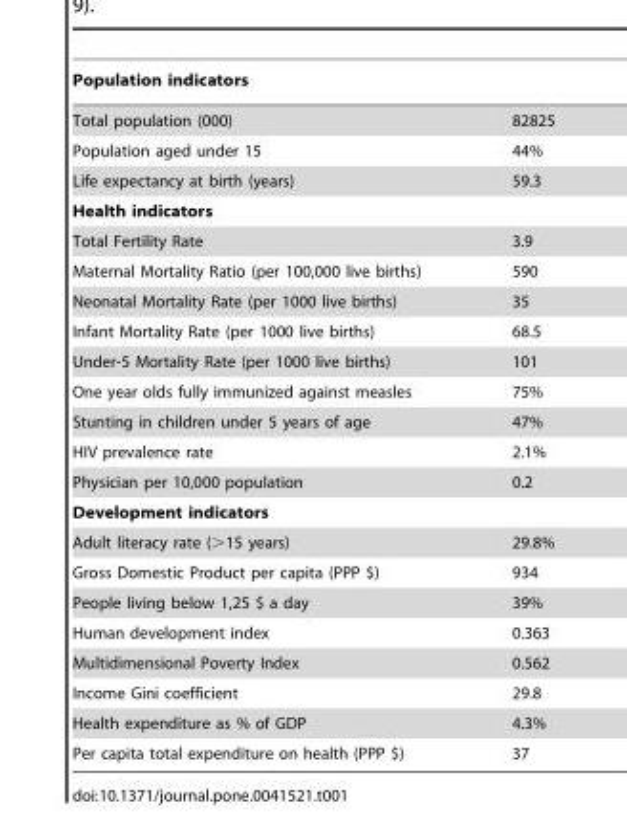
<table><thead><tr><td>Population indicators</td><td></td></tr></thead><tbody><tr><td>Total population (000)</td><td>82825</td></tr><tr><td>Population aged under 15</td><td>44%</td></tr><tr><td>Life expectancy at birth (years)</td><td>59.3</td></tr><tr><td colspan="2">Health indicators</td></tr><tr><td>Total Fertility Rate</td><td>3.9</td></tr><tr><td>Maternal Mortality Ratio (per 100,000 live births)</td><td>590</td></tr><tr><td>Neonatal Mortality Rate (per 1000 live births)</td><td>35</td></tr><tr><td>Infant Mortality Rate (per 1000 live births)</td><td>68.5</td></tr><tr><td>Under-5 Mortality Rate (per 1000 live births)</td><td>101</td></tr><tr><td>One year olds fully immunized against measles</td><td>75%</td></tr><tr><td>Stunting in children under 5 years of age</td><td>47%</td></tr><tr><td>HIV prevalence rate</td><td>2.1%</td></tr><tr><td>Physician per 10,000 population</td><td>0.2</td></tr><tr><td colspan="2">Development indicators</td></tr><tr><td>Adult literacy rate (&gt;15 years)</td><td>29.8%</td></tr><tr><td>Gross Domestic Product per capita (PPP $)</td><td>934</td></tr><tr><td>People living below 1,25 $ a day</td><td>39%</td></tr><tr><td>Human development index</td><td>0.363</td></tr><tr><td>Multidimensional Poverty Index</td><td>0.562</td></tr><tr><td>Income Gini coefficient</td><td>29.8</td></tr><tr><td>Health expenditure as % of GDP</td><td>4.3%</td></tr><tr><td>Per capita total expenditure on health (PPP $)</td><td>37</td></tr></tbody></table>